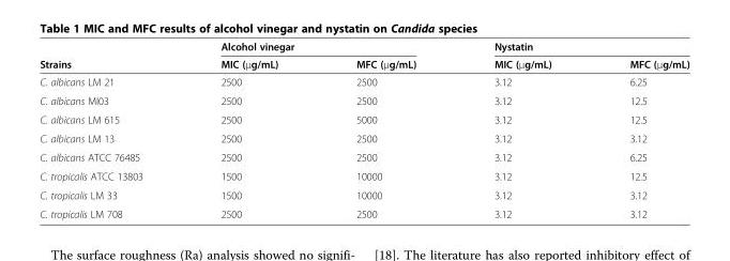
<table><thead><tr><td rowspan="2">Strains</td><td colspan="2">Alcohol vinegar</td><td colspan="2">Nystatin</td></tr><tr><td>MIC (μg/mL)</td><td>MFC (μg/mL)</td><td>MIC (μg/mL)</td><td>MFC (μg/mL)</td></tr></thead><tbody><tr><td>C. albicans LM 21</td><td>2500</td><td>2500</td><td>3.12</td><td>6.25</td></tr><tr><td>C. albicans MI03</td><td>2500</td><td>2500</td><td>3.12</td><td>12.5</td></tr><tr><td>C. albicans LM 615</td><td>2500</td><td>5000</td><td>3.12</td><td>12.5</td></tr><tr><td>C. albicans LM 13</td><td>2500</td><td>2500</td><td>3.12</td><td>3.12</td></tr><tr><td>C. albicans ATCC 76485</td><td>2500</td><td>2500</td><td>3.12</td><td>6.25</td></tr><tr><td>C. tropicalis ATCC 13803</td><td>1500</td><td>10000</td><td>3.12</td><td>12.5</td></tr><tr><td>C. tropicalis LM 33</td><td>1500</td><td>10000</td><td>3.12</td><td>3.12</td></tr><tr><td>C. tropicalis LM 708</td><td>2500</td><td>2500</td><td>3.12</td><td>3.12</td></tr></tbody></table>